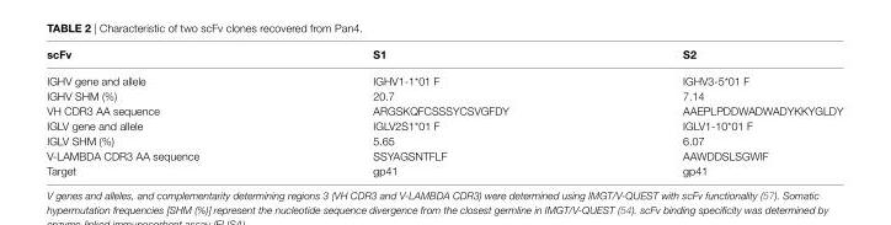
<table><thead><tr><td>scFv</td><td>s1</td><td>s2</td></tr></thead><tbody><tr><td>IGHV gene and allele</td><td>IGHV1-1*01 F</td><td>IGHV3-5*01 F</td></tr><tr><td>IGHV SHM (%)</td><td>20.7</td><td>7.14</td></tr><tr><td>VH CDR3 AA sequence</td><td>ARGSKQFCSSSYCSVGFDY</td><td>AAEPLPDDWADWADYKKYGLDY</td></tr><tr><td>IGLV gene and allele</td><td>IGLV2S1*01 F</td><td>IGLV1-10*01 F</td></tr><tr><td>IGLV SHM (%)</td><td>5.65</td><td>6.07</td></tr><tr><td>V-LAMBDA CDR3 AA sequence</td><td>SSYAGSNTFLF</td><td>AAWDDSLSGWIF</td></tr><tr><td>Target</td><td>gp41</td><td>gp41</td></tr></tbody></table>